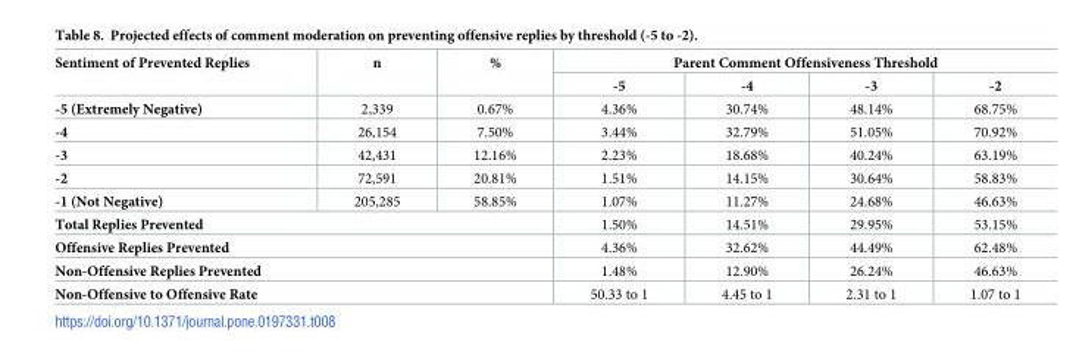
<table><thead><tr><td rowspan="2">Sentiment of Prevented Replies</td><td rowspan="2">n</td><td rowspan="2">%</td><td colspan="4">Parent Comment Offensiveness Threshold</td></tr><tr><td>-5</td><td>-4</td><td>-3</td><td>-2</td></tr></thead><tbody><tr><td>-5 (Extremely Negative)</td><td>2,339</td><td>0.67%</td><td>4.36%</td><td>30.74%</td><td>48.14%</td><td>68.75%</td></tr><tr><td>-4</td><td>26,154</td><td>7.50%</td><td>3.44%</td><td>32.79%</td><td>51.05%</td><td>70.92%</td></tr><tr><td>-3</td><td>42,431</td><td>12.16%</td><td>2.23%</td><td>18.68%</td><td>40.24%</td><td>63.19%</td></tr><tr><td>-2</td><td>72,591</td><td>20.81%</td><td>1.51%</td><td>14.15%</td><td>30.64%</td><td>58.83%</td></tr><tr><td>-1 (Not Negative)</td><td>205,285</td><td>58.85%</td><td>1.07%</td><td>11.27%</td><td>24.68%</td><td>46.63%</td></tr><tr><td colspan="3">Total Replies Prevented</td><td>1.50%</td><td>14.51%</td><td>29.95%</td><td>53.15%</td></tr><tr><td colspan="3">Offensive Replies Prevented</td><td>4.36%</td><td>32.62%</td><td>44.49%</td><td>62.48%</td></tr><tr><td colspan="3">Non-Offensive Replies Prevented</td><td>1.48%</td><td>12.90%</td><td>26.24%</td><td>46.63%</td></tr><tr><td colspan="3">Non-Offensive to Offensive Rate</td><td>50.33 to 1</td><td>4.45 to 1</td><td>2.31 to 1</td><td>1.07 to 1</td></tr></tbody></table>